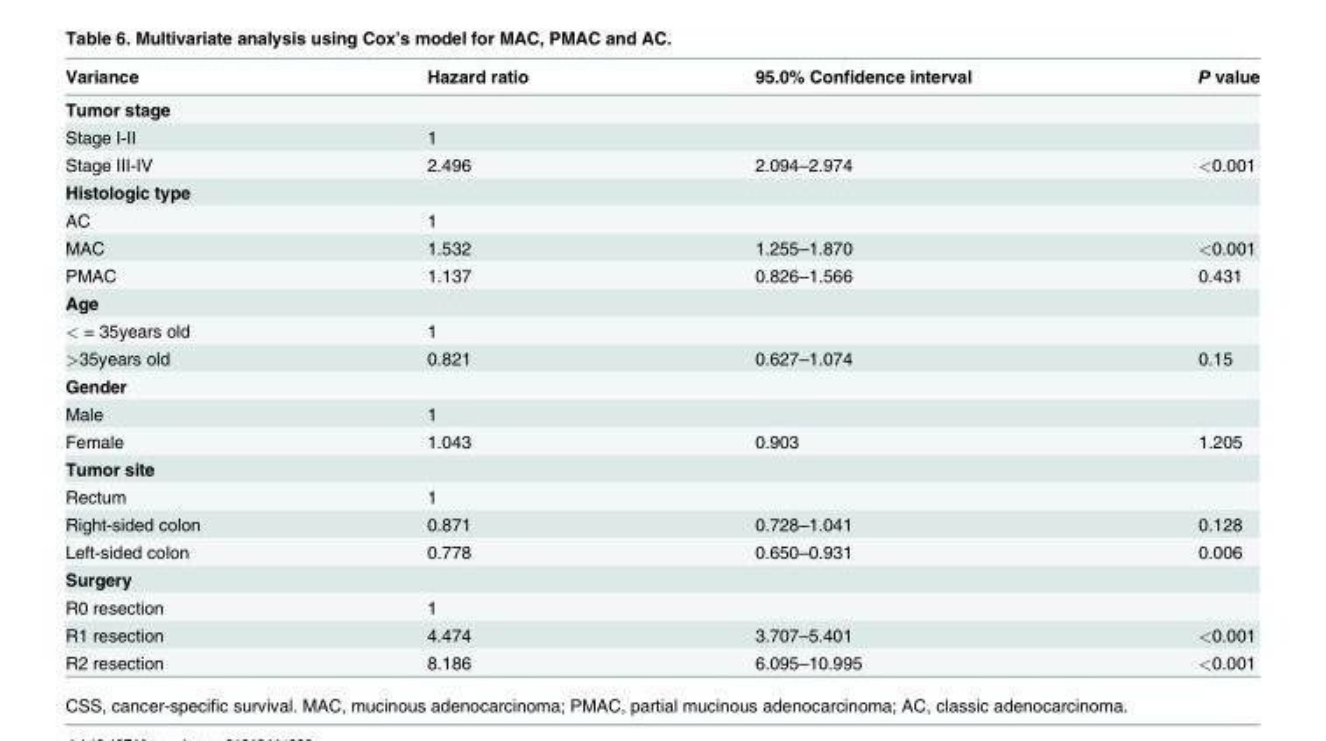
<table><thead><tr><td>Variance</td><td>Hazard ratio</td><td>95.0% Confidence interval</td><td>P value</td></tr></thead><tbody><tr><td colspan="4">Tumor stage</td></tr><tr><td>Stage I-II</td><td>1</td><td></td><td></td></tr><tr><td>Stage III-IV</td><td>2.496</td><td>2.094–2.974</td><td>&lt;0.001</td></tr><tr><td colspan="4">Histologic type</td></tr><tr><td>AC</td><td>1</td><td></td><td></td></tr><tr><td>MAC</td><td>1.532</td><td>1.255–1.870</td><td>&lt;0.001</td></tr><tr><td>PMAC</td><td>1.137</td><td>0.826–1.566</td><td>0.431</td></tr><tr><td colspan="4">Age</td></tr><tr><td>&lt; = 35years old</td><td>1</td><td></td><td></td></tr><tr><td>&gt;35years old</td><td>0.821</td><td>0.627–1.074</td><td>0.15</td></tr><tr><td colspan="4">Gender</td></tr><tr><td>Male</td><td>1</td><td></td><td></td></tr><tr><td>Female</td><td>1.043</td><td>0.903</td><td>1.205</td></tr><tr><td colspan="4">Tumor site</td></tr><tr><td>Rectum</td><td>1</td><td></td><td></td></tr><tr><td>Right-sided colon</td><td>0.871</td><td>0.728–1.041</td><td>0.128</td></tr><tr><td>Left-sided colon</td><td>0.778</td><td>0.650–0.931</td><td>0.006</td></tr><tr><td colspan="4">Surgery</td></tr><tr><td>R0 resection</td><td>1</td><td></td><td></td></tr><tr><td>R1 resection</td><td>4.474</td><td>3.707–5.401</td><td>&lt;0.001</td></tr><tr><td>R2 resection</td><td>8.186</td><td>6.095–10.995</td><td>&lt;0.001</td></tr></tbody></table>